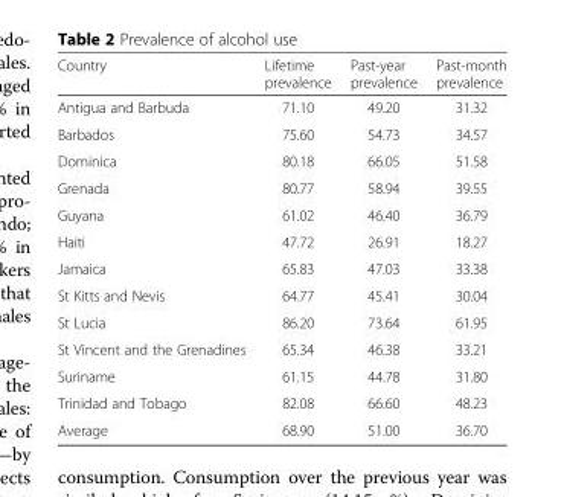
<table><thead><tr><td>Country</td><td>Lifetime prevalence</td><td>Past-year prevalence</td><td>Past-month prevalence</td></tr></thead><tbody><tr><td>Antigua and Barbuda</td><td>71.10</td><td>49.20</td><td>31.32</td></tr><tr><td>Barbados</td><td>75.60</td><td>54.73</td><td>34.57</td></tr><tr><td>Dominica</td><td>80.18</td><td>66.05</td><td>51.58</td></tr><tr><td>Grenada</td><td>80.77</td><td>58.94</td><td>39.55</td></tr><tr><td>Guyana</td><td>61.02</td><td>46.40</td><td>36.79</td></tr><tr><td>Haiti</td><td>47.72</td><td>26.91</td><td>18.27</td></tr><tr><td>Jamaica</td><td>65.83</td><td>47.03</td><td>33.38</td></tr><tr><td>St Kitts and Nevis</td><td>64.77</td><td>45.41</td><td>30.04</td></tr><tr><td>St Lucia</td><td>86.20</td><td>73.64</td><td>61.95</td></tr><tr><td>St Vincent and the Grenadines</td><td>65.34</td><td>46.38</td><td>33.21</td></tr><tr><td>Suriname</td><td>61.15</td><td>44.78</td><td>31.80</td></tr><tr><td>Trinidad and Tobago</td><td>82.08</td><td>66.60</td><td>48.23</td></tr><tr><td>Average</td><td>68.90</td><td>51.00</td><td>36.70</td></tr></tbody></table>